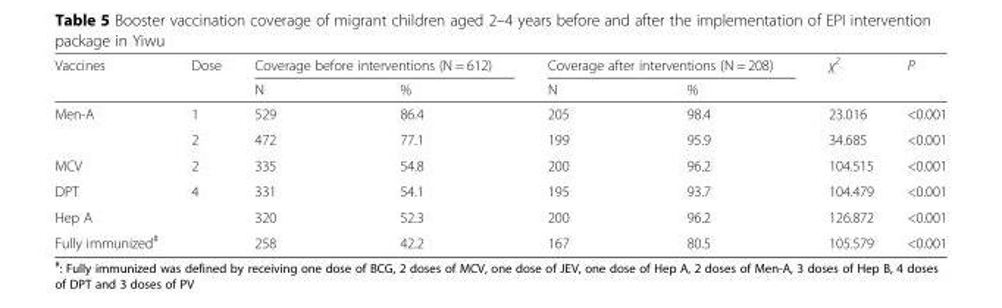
<table><thead><tr><td rowspan="2">Vaccines</td><td rowspan="2">Dose</td><td colspan="2">Coverage before interventions (N = 612)</td><td colspan="2">Coverage after interventions (N = 208)</td><td rowspan="2">χ<sup>2</sup></td><td rowspan="2">P</td></tr><tr><td>N</td><td>%</td><td>N</td><td>%</td></tr></thead><tbody><tr><td rowspan="2">Men-A</td><td>1</td><td>529</td><td>86.4</td><td>205</td><td>98.4</td><td>23.016</td><td>&lt;0.001</td></tr><tr><td>2</td><td>472</td><td>77.1</td><td>199</td><td>95.9</td><td>34.685</td><td>&lt;0.001</td></tr><tr><td>MCV</td><td>2</td><td>335</td><td>54.8</td><td>200</td><td>96.2</td><td>104.515</td><td>&lt;0.001</td></tr><tr><td>DPT</td><td>4</td><td>331</td><td>54.1</td><td>195</td><td>93.7</td><td>104.479</td><td>&lt;0.001</td></tr><tr><td>Hep A</td><td></td><td>320</td><td>52.3</td><td>200</td><td>96.2</td><td>126.872</td><td>&lt;0.001</td></tr><tr><td>Fully immunized<sup>#</sup></td><td></td><td>258</td><td>42.2</td><td>167</td><td>80.5</td><td>105.579</td><td>&lt;0.001</td></tr></tbody></table>